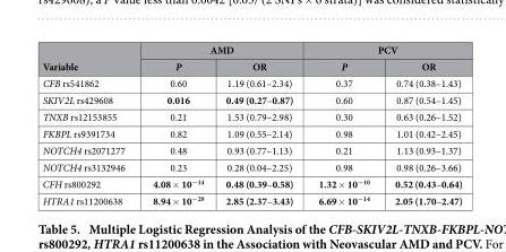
<table><thead><tr><td rowspan="2">Variable</td><td colspan="2">AMD</td><td colspan="2">PCV</td></tr><tr><td>P</td><td>OR</td><td>P</td><td>OR</td></tr></thead><tbody><tr><td>CFB rs541862</td><td>0.60</td><td>1.19 (0.61–2.34)</td><td>0.37</td><td>0.74 (0.38–1.43)</td></tr><tr><td>SKIV2L rs429608</td><td>0.016</td><td>0.49 (0.27–0.87)</td><td>0.60</td><td>0.87 (0.54–1.45)</td></tr><tr><td>TNXB rs12153855</td><td>0.21</td><td>1.53 (0.79–2.98)</td><td>0.30</td><td>0.63 (0.26–1.52)</td></tr><tr><td>FKBPL rs9391734</td><td>0.82</td><td>1.09 (0.55–2.14)</td><td>0.98</td><td>1.01 (0.42–2.45)</td></tr><tr><td>NOTCH4 rs2071277</td><td>0.48</td><td>0.93 (0.77–1.13)</td><td>0.21</td><td>1.13 (0.93–1.37)</td></tr><tr><td>NOTCH4 rs3132946</td><td>0.23</td><td>0.28 (0.04–2.25)</td><td>0.98</td><td>0.98 (0.26–3.66)</td></tr><tr><td>CFH rs800292</td><td>4.08 × 10<sup>−14</sup></td><td>0.48 (0.39–0.58)</td><td>1.32 × 10<sup>−10</sup></td><td>0.52 (0.43–0.64)</td></tr><tr><td>HTRA1 rs11200638</td><td>8.94 × 10<sup>−29</sup></td><td>2.85 (2.37–3.43)</td><td>6.69 × 10<sup>−14</sup></td><td>2.05 (1.70–2.47)</td></tr></tbody></table>